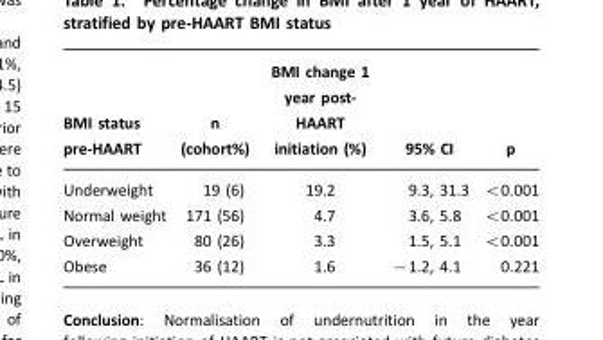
<table><thead><tr><td>BMI status pre-HAART</td><td>n (cohort%)</td><td>BMI change 1 year post- HAART initiation (%)</td><td>95% CI</td><td>p</td></tr></thead><tbody><tr><td>Underweight</td><td>19 (6)</td><td>19.2</td><td>9.3, 31.3</td><td>&lt;0.001</td></tr><tr><td>Normal weight</td><td>171 (56)</td><td>4.7</td><td>3.6, 5.8</td><td>&lt;0.001</td></tr><tr><td>Overweight</td><td>80 (26)</td><td>3.3</td><td>1.5, 5.1</td><td>&lt;0.001</td></tr><tr><td>Obese</td><td>36 (12)</td><td>1.6</td><td>−1.2, 4.1</td><td>0.221</td></tr></tbody></table>